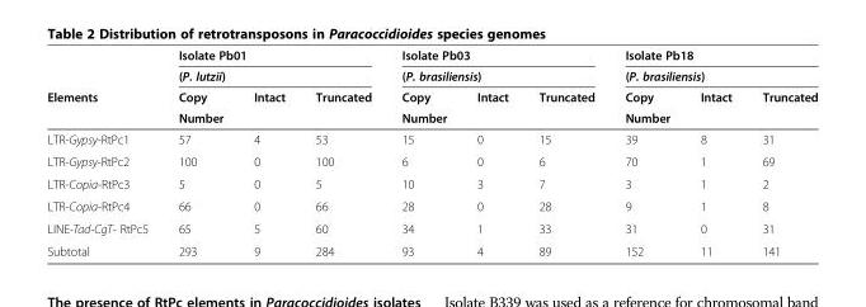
<table><thead><tr><td rowspan="4">Elements</td><td rowspan="2" colspan="3">Isolate Pb01 (P. lutzii)</td><td rowspan="2" colspan="3">Isolate Pb03 (P. brasiliensis)</td><td rowspan="2" colspan="3">Isolate Pb18 (P. brasiliensis)</td></tr><tr></tr><tr><td rowspan="2">Copy Number</td><td rowspan="2">Intact</td><td rowspan="2">Truncated</td><td rowspan="2">Copy Number</td><td rowspan="2">Intact</td><td rowspan="2">Truncated</td><td rowspan="2">Copy Number</td><td rowspan="2">Intact</td><td rowspan="2">Truncated</td></tr><tr></tr></thead><tbody><tr><td>LTR-Gypsy-RtPc1</td><td>57</td><td>4</td><td>53</td><td>15</td><td>0</td><td>15</td><td>39</td><td>8</td><td>31</td></tr><tr><td>LTR-Gypsy-RtPc2</td><td>100</td><td>0</td><td>100</td><td>6</td><td>0</td><td>6</td><td>70</td><td>1</td><td>69</td></tr><tr><td>LTR-Copia-RtPc3</td><td>5</td><td>0</td><td>5</td><td>10</td><td>3</td><td>7</td><td>3</td><td>1</td><td>2</td></tr><tr><td>LTR-Copia-RtPc4</td><td>66</td><td>0</td><td>66</td><td>28</td><td>0</td><td>28</td><td>9</td><td>1</td><td>8</td></tr><tr><td>LINE-Tad-CgT- RtPc5</td><td>65</td><td>5</td><td>60</td><td>34</td><td>1</td><td>33</td><td>31</td><td>0</td><td>31</td></tr><tr><td>Subtotal</td><td>293</td><td>9</td><td>284</td><td>93</td><td>4</td><td>89</td><td>152</td><td>11</td><td>141</td></tr></tbody></table>